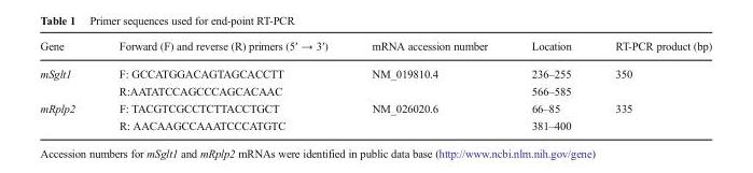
<table><thead><tr><td>Gene</td><td>Forward (F) and reverse (R) primers (5′ → 3′)</td><td>mRNA accession number</td><td>Location</td><td>RT-PCR product (bp)</td></tr></thead><tbody><tr><td rowspan="2">mSglt1</td><td>F: GCCATGGACAGTAGCACCTT</td><td>NM_019810.4</td><td>236–255</td><td>350</td></tr><tr><td>R:AATATCCAGCCCAGCACAAC</td><td></td><td>566–585</td><td></td></tr><tr><td rowspan="2">mRplp2</td><td>F: TACGTCGCCTCTTACCTGCT</td><td>NM_026020.6</td><td>66–85</td><td>335</td></tr><tr><td>R: AACAAGCCAAATCCCATGTC</td><td></td><td>381–400</td><td></td></tr></tbody></table>